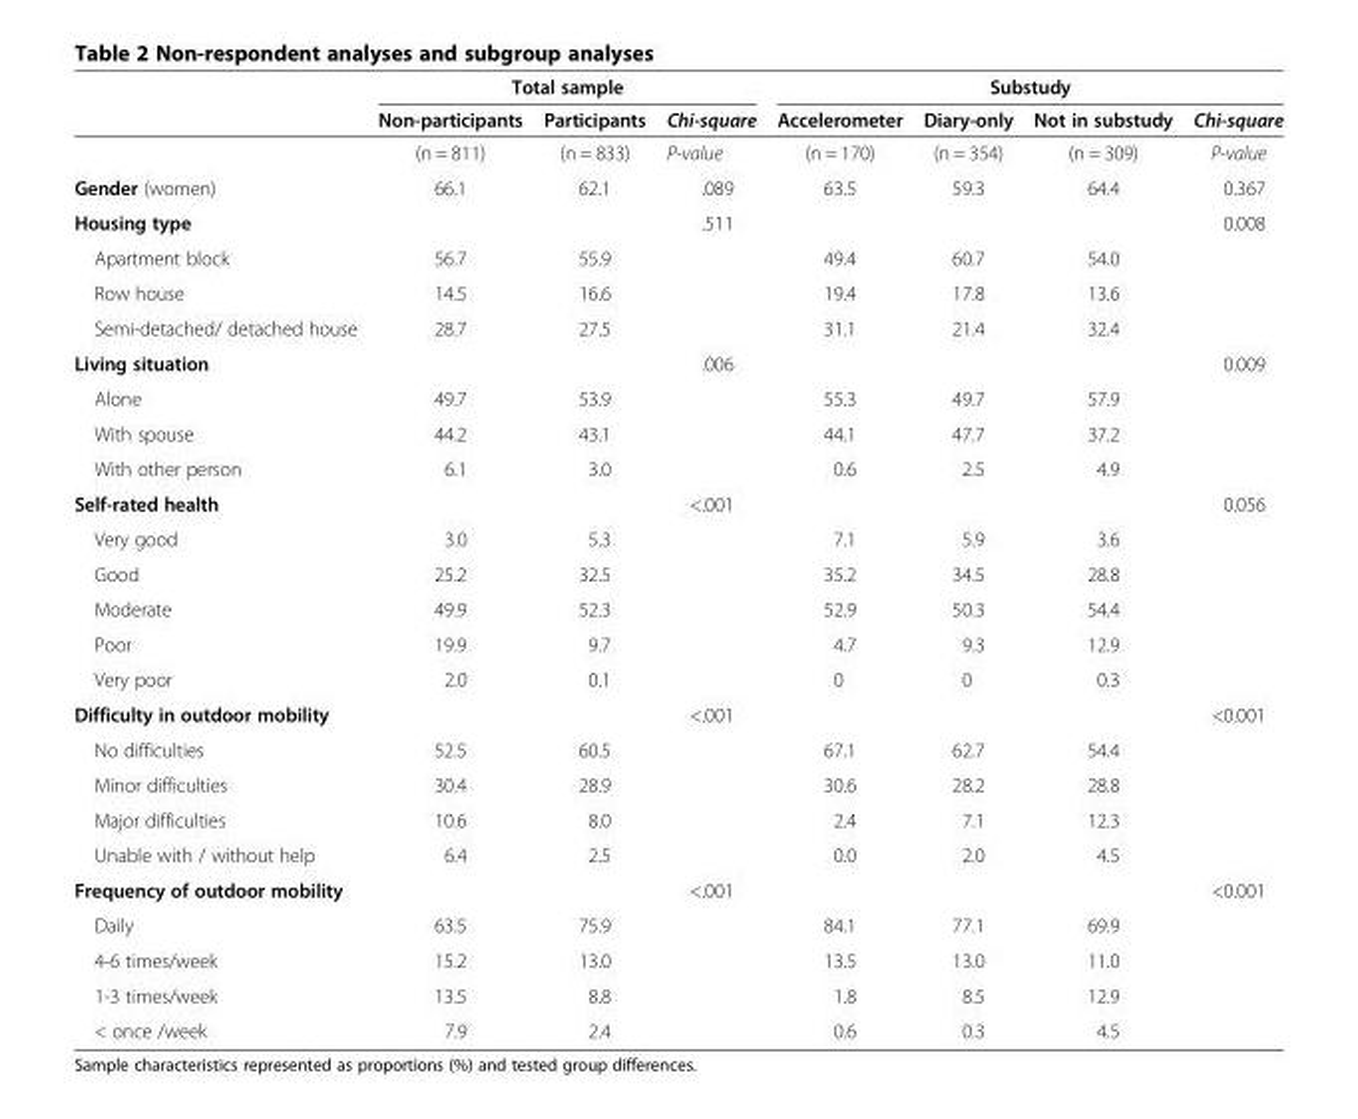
<table><thead><tr><td rowspan="2"></td><td colspan="3">Total sample</td><td colspan="4">Substudy</td></tr><tr><td>Non-participants</td><td>Participants</td><td>Chi-square</td><td>Accelerometer</td><td>Diary-only</td><td>Not in substudy</td><td>Chi-square</td></tr></thead><tbody><tr><td></td><td>(n = 811)</td><td>(n = 833)</td><td>P-value</td><td>(n = 170)</td><td>(n = 354)</td><td>(n = 309)</td><td>P-value</td></tr><tr><td>Gender (women)</td><td>66.1</td><td>62.1</td><td>.089</td><td>63.5</td><td>59.3</td><td>64.4</td><td>0.367</td></tr><tr><td>Housing type</td><td></td><td></td><td>.511</td><td></td><td></td><td></td><td>0.008</td></tr><tr><td>Apartment block</td><td>56.7</td><td>55.9</td><td></td><td>49.4</td><td>60.7</td><td>54.0</td><td></td></tr><tr><td>Row house</td><td>14.5</td><td>16.6</td><td></td><td>19.4</td><td>17.8</td><td>13.6</td><td></td></tr><tr><td>Semi-detached/ detached house</td><td>28.7</td><td>27.5</td><td></td><td>31.1</td><td>21.4</td><td>32.4</td><td></td></tr><tr><td>Living situation</td><td></td><td></td><td>.006</td><td></td><td></td><td></td><td>0.009</td></tr><tr><td>Alone</td><td>49.7</td><td>53.9</td><td></td><td>55.3</td><td>49.7</td><td>57.9</td><td></td></tr><tr><td>With spouse</td><td>44.2</td><td>43.1</td><td></td><td>44.1</td><td>47.7</td><td>37.2</td><td></td></tr><tr><td>With other person</td><td>6.1</td><td>3.0</td><td></td><td>0.6</td><td>2.5</td><td>4.9</td><td></td></tr><tr><td>Self-rated health</td><td></td><td></td><td>&lt;.001</td><td></td><td></td><td></td><td>0.056</td></tr><tr><td>Very good</td><td>3.0</td><td>5.3</td><td></td><td>7.1</td><td>5.9</td><td>3.6</td><td></td></tr><tr><td>Good</td><td>25.2</td><td>32.5</td><td></td><td>35.2</td><td>34.5</td><td>28.8</td><td></td></tr><tr><td>Moderate</td><td>49.9</td><td>52.3</td><td></td><td>52.9</td><td>50.3</td><td>54.4</td><td></td></tr><tr><td>Poor</td><td>19.9</td><td>9.7</td><td></td><td>4.7</td><td>9.3</td><td>12.9</td><td></td></tr><tr><td>Very poor</td><td>2.0</td><td>0.1</td><td></td><td>0</td><td>0</td><td>0.3</td><td></td></tr><tr><td>Difficulty in outdoor mobility</td><td></td><td></td><td>&lt;.001</td><td></td><td></td><td></td><td>&lt;0.001</td></tr><tr><td>No difficulties</td><td>52.5</td><td>60.5</td><td></td><td>67.1</td><td>62.7</td><td>54.4</td><td></td></tr><tr><td>Minor difficulties</td><td>30.4</td><td>28.9</td><td></td><td>30.6</td><td>28.2</td><td>28.8</td><td></td></tr><tr><td>Major difficulties</td><td>10.6</td><td>8.0</td><td></td><td>2.4</td><td>7.1</td><td>12.3</td><td></td></tr><tr><td>Unable with / without help</td><td>6.4</td><td>2.5</td><td></td><td>0.0</td><td>2.0</td><td>4.5</td><td></td></tr><tr><td>Frequency of outdoor mobility</td><td></td><td></td><td>&lt;.001</td><td></td><td></td><td></td><td>&lt;0.001</td></tr><tr><td>Daily</td><td>63.5</td><td>75.9</td><td></td><td>84.1</td><td>77.1</td><td>69.9</td><td></td></tr><tr><td>4-6 times/week</td><td>15.2</td><td>13.0</td><td></td><td>13.5</td><td>13.0</td><td>11.0</td><td></td></tr><tr><td>1-3 times/week</td><td>13.5</td><td>8.8</td><td></td><td>1.8</td><td>8.5</td><td>12.9</td><td></td></tr><tr><td>&lt; once /week</td><td>7.9</td><td>2.4</td><td></td><td>0.6</td><td>0.3</td><td>4.5</td><td></td></tr></tbody></table>